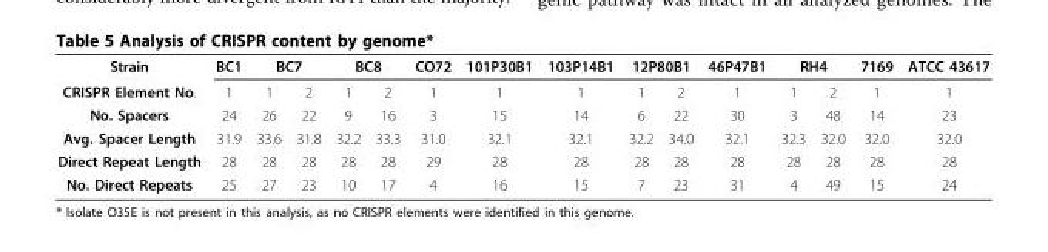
<table><tbody><tr><td>Strain</td><td>BC1</td><td colspan="2">BC7</td><td colspan="2">BC8</td><td>CO72</td><td>101P30B1</td><td>103P14B1</td><td colspan="2">12P80B1</td><td>46P47B1</td><td colspan="2">RH4</td><td>7169</td><td>ATCC 43617</td></tr><tr><td>CRISPR Element No.</td><td>1</td><td>1</td><td>2</td><td>1</td><td>2</td><td>1</td><td>1</td><td>1</td><td>1</td><td>2</td><td>1</td><td>1</td><td>2</td><td>1</td><td>1</td></tr><tr><td>No. Spacers</td><td>24</td><td>26</td><td>22</td><td>9</td><td>16</td><td>3</td><td>15</td><td>14</td><td>6</td><td>22</td><td>30</td><td>3</td><td>48</td><td>14</td><td>23</td></tr><tr><td>Avg. Spacer Length</td><td>31.9</td><td>33.6</td><td>31.8</td><td>32.2</td><td>33.3</td><td>31.0</td><td>32.1</td><td>32.1</td><td>32.2</td><td>34.0</td><td>32.1</td><td>32.3</td><td>32.0</td><td>32.0</td><td>32.0</td></tr><tr><td>Direct Repeat Length</td><td>28</td><td>28</td><td>28</td><td>28</td><td>28</td><td>29</td><td>28</td><td>28</td><td>28</td><td>28</td><td>28</td><td>28</td><td>28</td><td>28</td><td>28</td></tr><tr><td>No. Direct Repeats</td><td>25</td><td>27</td><td>23</td><td>10</td><td>17</td><td>4</td><td>16</td><td>15</td><td>7</td><td>23</td><td>31</td><td>4</td><td>49</td><td>15</td><td>24</td></tr></tbody></table>